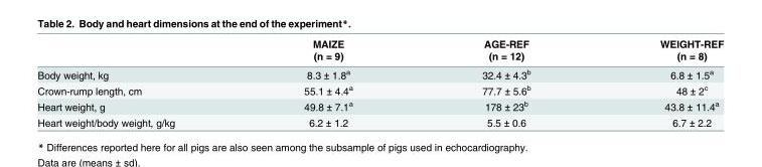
<table><thead><tr><td rowspan="2"></td><td rowspan="2">MAIZE (n = 9)</td><td rowspan="2">AGE-REF (n = 12)</td><td rowspan="2">WEIGHT-REF (n = 8)</td></tr><tr></tr></thead><tbody><tr><td>Body weight, kg</td><td>8.3 ± 1.8<sup>a</sup></td><td>32.4 ± 4.3<sup>b</sup></td><td>6.8 ± 1.5<sup>a</sup></td></tr><tr><td>Crown-rump length, cm</td><td>55.1 ± 4.4<sup>a</sup></td><td>77.7 ± 5.6<sup>b</sup></td><td>48 ± 2<sup>c</sup></td></tr><tr><td>Heart weight, g</td><td>49.8 ± 7.1<sup>a</sup></td><td>178 ± 23<sup>b</sup></td><td>43.8 ± 11.4<sup>a</sup></td></tr><tr><td>Heart weight/body weight, g/kg</td><td>6.2 ± 1.2</td><td>5.5 ± 0.6</td><td>6.7 ± 2.2</td></tr></tbody></table>